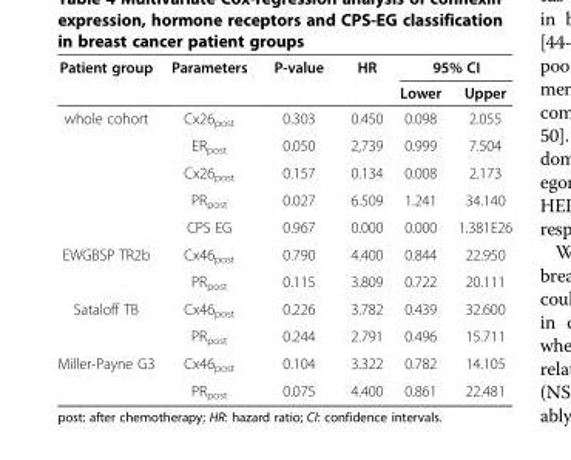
<table><thead><tr><td rowspan="2">Patient group</td><td rowspan="2">Parameters</td><td rowspan="2">P-value</td><td rowspan="2">HR</td><td colspan="2">95% CI</td></tr><tr><td>Lower</td><td>Upper</td></tr></thead><tbody><tr><td rowspan="5">whole cohort</td><td>Cx26<sub>post</sub></td><td>0.303</td><td>0.450</td><td>0.098</td><td>2.055</td></tr><tr><td>ER<sub>post</sub></td><td>0.050</td><td>2,739</td><td>0.999</td><td>7.504</td></tr><tr><td>Cx26<sub>post</sub></td><td>0.157</td><td>0.134</td><td>0.008</td><td>2.173</td></tr><tr><td>PR<sub>post</sub></td><td>0.027</td><td>6.509</td><td>1.241</td><td>34.140</td></tr><tr><td>CPS EG</td><td>0.967</td><td>0.000</td><td>0.000</td><td>1.381E26</td></tr><tr><td rowspan="2">EWGBSP TR2b</td><td>Cx46<sub>post</sub></td><td>0.790</td><td>4.400</td><td>0.844</td><td>22.950</td></tr><tr><td>PR<sub>post</sub></td><td>0.115</td><td>3.809</td><td>0.722</td><td>20.111</td></tr><tr><td rowspan="2">Sataloff TB</td><td>Cx46<sub>post</sub></td><td>0.226</td><td>3.782</td><td>0.439</td><td>32.600</td></tr><tr><td>PR<sub>post</sub></td><td>0.244</td><td>2.791</td><td>0.496</td><td>15.711</td></tr><tr><td rowspan="2">Miller-Payne G3</td><td>Cx46<sub>post</sub></td><td>0.104</td><td>3.322</td><td>0.782</td><td>14.105</td></tr><tr><td>PR<sub>post</sub></td><td>0.075</td><td>4.400</td><td>0.861</td><td>22.481</td></tr></tbody></table>